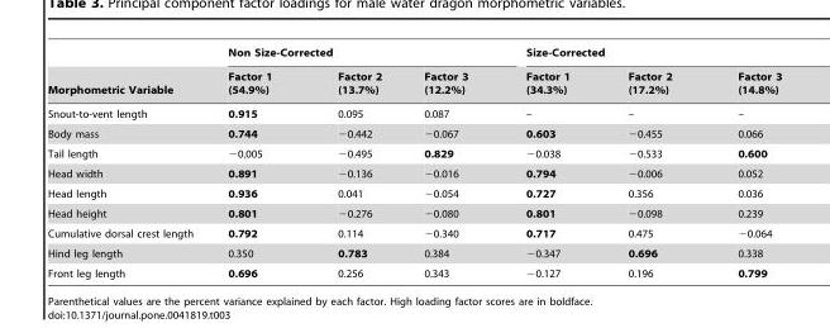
<table><thead><tr><td rowspan="2">Morphometric Variable</td><td colspan="3">Non Size-Corrected</td><td colspan="3">Size-Corrected</td></tr><tr><td>Factor 1 (54.9%)</td><td>Factor 2 (13.7%)</td><td>Factor 3 (12.2%)</td><td>Factor 1 (34.3%)</td><td>Factor 2 (17.2%)</td><td>Factor 3 (14.8%)</td></tr></thead><tbody><tr><td>Snout-to-vent length</td><td>0.915</td><td>0.095</td><td>0.087</td><td>–</td><td>–</td><td>–</td></tr><tr><td>Body mass</td><td>0.744</td><td>−0.442</td><td>−0.067</td><td>0.603</td><td>−0.455</td><td>0.066</td></tr><tr><td>Tail length</td><td>−0.005</td><td>−0.495</td><td>0.829</td><td>−0.038</td><td>−0.533</td><td>0.600</td></tr><tr><td>Head width</td><td>0.891</td><td>−0.136</td><td>−0.016</td><td>0.794</td><td>−0.006</td><td>0.052</td></tr><tr><td>Head length</td><td>0.936</td><td>0.041</td><td>−0.054</td><td>0.727</td><td>0.356</td><td>0.036</td></tr><tr><td>Head height</td><td>0.801</td><td>−0.276</td><td>−0.080</td><td>0.801</td><td>−0.098</td><td>0.239</td></tr><tr><td>Cumulative dorsal crest length</td><td>0.792</td><td>0.114</td><td>−0.340</td><td>0.717</td><td>0.475</td><td>−0.064</td></tr><tr><td>Hind leg length</td><td>0.350</td><td>0.783</td><td>0.384</td><td>−0.347</td><td>0.696</td><td>0.338</td></tr><tr><td>Front leg length</td><td>0.696</td><td>0.256</td><td>0.343</td><td>−0.127</td><td>0.196</td><td>0.799</td></tr></tbody></table>